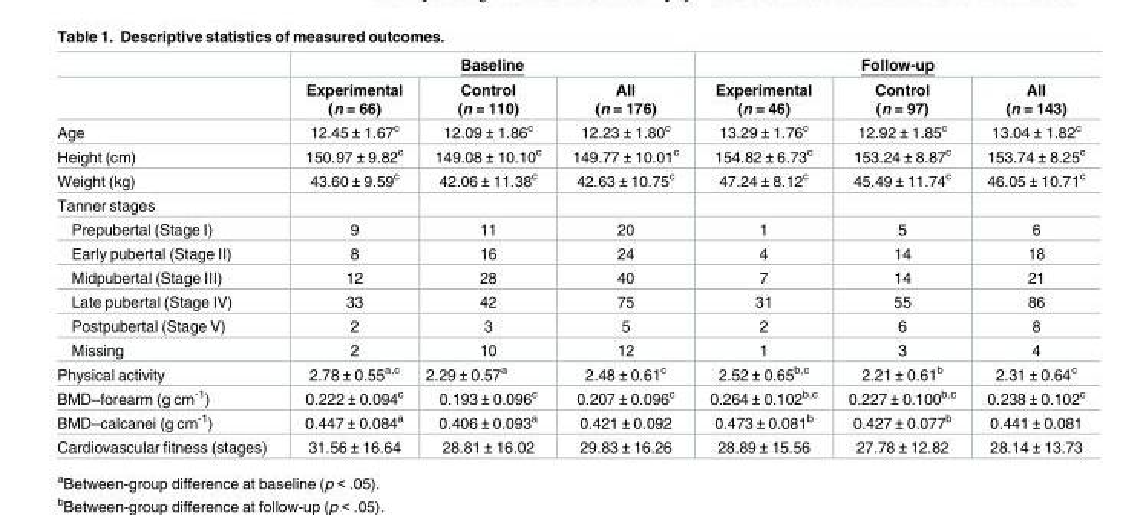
<table><thead><tr><td rowspan="2"></td><td colspan="3">Baseline</td><td colspan="3">Follow-up</td></tr><tr><td>Experimental (n = 66)</td><td>Control (n = 110)</td><td>All (n = 176)</td><td>Experimental (n = 46)</td><td>Control (n = 97)</td><td>All (n = 143)</td></tr></thead><tbody><tr><td>Age</td><td>12.45 ± 1.67<sup>c</sup></td><td>12.09 ± 1.86<sup>c</sup></td><td>12.23 ± 1.80<sup>c</sup></td><td>13.29 ± 1.76<sup>c</sup></td><td>12.92 ± 1.85<sup>c</sup></td><td>13.04 ± 1.82<sup>c</sup></td></tr><tr><td>Height (cm)</td><td>150.97 ± 9.82<sup>c</sup></td><td>149.08 ± 10.10<sup>c</sup></td><td>149.77 ± 10.01<sup>c</sup></td><td>154.82 ± 6.73<sup>c</sup></td><td>153.24 ± 8.87<sup>c</sup></td><td>153.74 ± 8.25<sup>c</sup></td></tr><tr><td>Weight (kg)</td><td>43.60 ± 9.59<sup>c</sup></td><td>42.06 ± 11.38<sup>c</sup></td><td>42.63 ± 10.75<sup>c</sup></td><td>47.24 ± 8.12<sup>c</sup></td><td>45.49 ± 11.74<sup>c</sup></td><td>46.05 ± 10.71<sup>c</sup></td></tr><tr><td colspan="7">Tanner stages</td></tr><tr><td>Prepubertal (Stage I)</td><td>9</td><td>11</td><td>20</td><td>1</td><td>5</td><td>6</td></tr><tr><td>Early pubertal (Stage II)</td><td>8</td><td>16</td><td>24</td><td>4</td><td>14</td><td>18</td></tr><tr><td>Midpubertal (Stage III)</td><td>12</td><td>28</td><td>40</td><td>7</td><td>14</td><td>21</td></tr><tr><td>Late pubertal (Stage IV)</td><td>33</td><td>42</td><td>75</td><td>31</td><td>55</td><td>86</td></tr><tr><td>Postpubertal (Stage V)</td><td>2</td><td>3</td><td>5</td><td>2</td><td>6</td><td>8</td></tr><tr><td>Missing</td><td>2</td><td>10</td><td>12</td><td>1</td><td>3</td><td>4</td></tr><tr><td>Physical activity</td><td>2.78 ± 0.55<sup>a,c</sup></td><td>2.29 ± 0.57<sup>a</sup></td><td>2.48 ± 0.61<sup>c</sup></td><td>2.52 ± 0.65<sup>b,c</sup></td><td>2.21 ± 0.61<sup>b</sup></td><td>2.31 ± 0.64<sup>c</sup></td></tr><tr><td>BMD–forearm (g cm<sup>-1</sup>)</td><td>0.222 ± 0.094<sup>c</sup></td><td>0.193 ± 0.096<sup>c</sup></td><td>0.207 ± 0.096<sup>c</sup></td><td>0.264 ± 0.102<sup>b,c</sup></td><td>0.227 ± 0.100<sup>b,c</sup></td><td>0.238 ± 0.102<sup>c</sup></td></tr><tr><td>BMD–calcanei (g cm<sup>-1</sup>)</td><td>0.447 ± 0.084<sup>a</sup></td><td>0.406 ± 0.093<sup>a</sup></td><td>0.421 ± 0.092</td><td>0.473 ± 0.081<sup>b</sup></td><td>0.427 ± 0.077<sup>b</sup></td><td>0.441 ± 0.081</td></tr><tr><td>Cardiovascular fitness (stages)</td><td>31.56 ± 16.64</td><td>28.81 ± 16.02</td><td>29.83 ± 16.26</td><td>28.89 ± 15.56</td><td>27.78 ± 12.82</td><td>28.14 ± 13.73</td></tr></tbody></table>